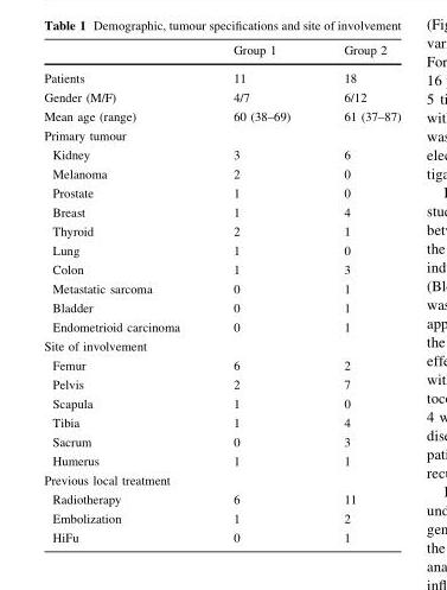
<table><thead><tr><td></td><td>Group 1</td><td>Group 2</td></tr></thead><tbody><tr><td>Patients</td><td>11</td><td>18</td></tr><tr><td>Gender (M/F)</td><td>4/7</td><td>6/12</td></tr><tr><td>Mean age (range)</td><td>60 (38–69)</td><td>61 (37–87)</td></tr><tr><td colspan="3">Primary tumour</td></tr><tr><td>Kidney</td><td>3</td><td>6</td></tr><tr><td>Melanoma</td><td>2</td><td>0</td></tr><tr><td>Prostate</td><td>1</td><td>0</td></tr><tr><td>Breast</td><td>1</td><td>4</td></tr><tr><td>Thyroid</td><td>2</td><td>1</td></tr><tr><td>Lung</td><td>1</td><td>0</td></tr><tr><td>Colon</td><td>1</td><td>3</td></tr><tr><td>Metastatic sarcoma</td><td>0</td><td>1</td></tr><tr><td>Bladder</td><td>0</td><td>1</td></tr><tr><td>Endometrioid carcinoma</td><td>0</td><td>1</td></tr><tr><td colspan="3">Site of involvement</td></tr><tr><td>Femur</td><td>6</td><td>2</td></tr><tr><td>Pelvis</td><td>2</td><td>7</td></tr><tr><td>Scapula</td><td>1</td><td>0</td></tr><tr><td>Tibia</td><td>1</td><td>4</td></tr><tr><td>Sacrum</td><td>0</td><td>3</td></tr><tr><td>Humerus</td><td>1</td><td>1</td></tr><tr><td colspan="3">Previous local treatment</td></tr><tr><td>Radiotherapy</td><td>6</td><td>11</td></tr><tr><td>Embolization</td><td>1</td><td>2</td></tr><tr><td>HiFu</td><td>0</td><td>1</td></tr></tbody></table>